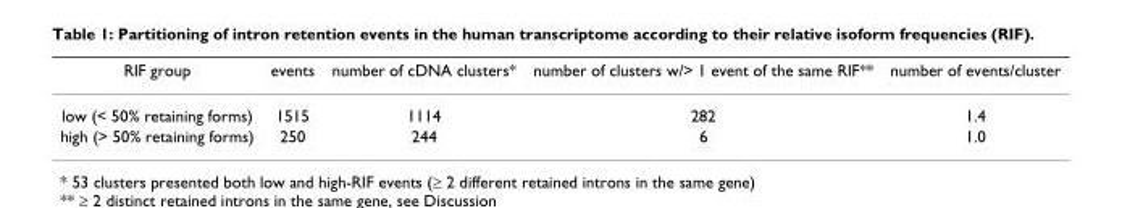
<table><thead><tr><td>RIF group</td><td>events</td><td>number of cDNA clusters*</td><td>number of clusters w/&gt; 1 event of the same RIF**</td><td>number of events/cluster</td></tr></thead><tbody><tr><td>low (&lt; 50% retaining forms)</td><td>1515</td><td>1114</td><td>282</td><td>1.4</td></tr><tr><td>high (&gt; 50% retaining forms)</td><td>250</td><td>244</td><td>6</td><td>1.0</td></tr></tbody></table>